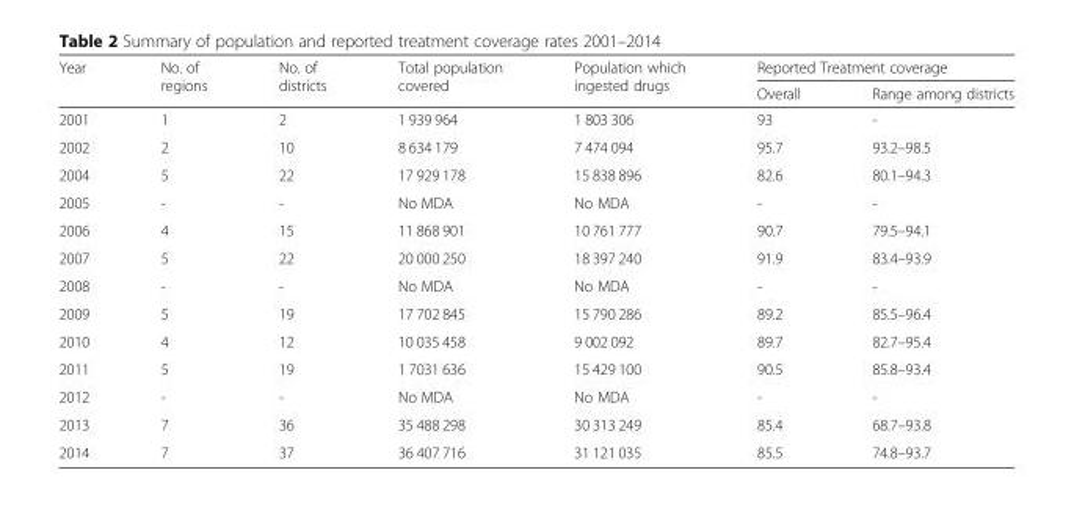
<table><thead><tr><td rowspan="2">Year</td><td rowspan="2">No. of regions</td><td rowspan="2">No. of districts</td><td rowspan="2">Total population covered</td><td rowspan="2">Population which ingested drugs</td><td colspan="2">Reported Treatment coverage</td></tr><tr><td>Overall</td><td>Range among districts</td></tr></thead><tbody><tr><td>2001</td><td>1</td><td>2</td><td>1 939 964</td><td>1 803 306</td><td>93</td><td>-</td></tr><tr><td>2002</td><td>2</td><td>10</td><td>8 634 179</td><td>7 474 094</td><td>95.7</td><td>93.2–98.5</td></tr><tr><td>2004</td><td>5</td><td>22</td><td>17 929 178</td><td>15 838 896</td><td>82.6</td><td>80.1–94.3</td></tr><tr><td>2005</td><td>-</td><td>-</td><td>No MDA</td><td>No MDA</td><td>-</td><td>-</td></tr><tr><td>2006</td><td>4</td><td>15</td><td>11 868 901</td><td>10 761 777</td><td>90.7</td><td>79.5–94.1</td></tr><tr><td>2007</td><td>5</td><td>22</td><td>20 000 250</td><td>18 397 240</td><td>91.9</td><td>83.4–93.9</td></tr><tr><td>2008</td><td>-</td><td>-</td><td>No MDA</td><td>No MDA</td><td>-</td><td>-</td></tr><tr><td>2009</td><td>5</td><td>19</td><td>17 702 845</td><td>15 790 286</td><td>89.2</td><td>85.5–96.4</td></tr><tr><td>2010</td><td>4</td><td>12</td><td>10 035 458</td><td>9 002 092</td><td>89.7</td><td>82.7–95.4</td></tr><tr><td>2011</td><td>5</td><td>19</td><td>1 7031 636</td><td>15 429 100</td><td>90.5</td><td>85.8–93.4</td></tr><tr><td>2012</td><td>-</td><td>-</td><td>No MDA</td><td>No MDA</td><td>-</td><td>-</td></tr><tr><td>2013</td><td>7</td><td>36</td><td>35 488 298</td><td>30 313 249</td><td>85.4</td><td>68.7–93.8</td></tr><tr><td>2014</td><td>7</td><td>37</td><td>36 407 716</td><td>31 121 035</td><td>85.5</td><td>74.8–93.7</td></tr></tbody></table>